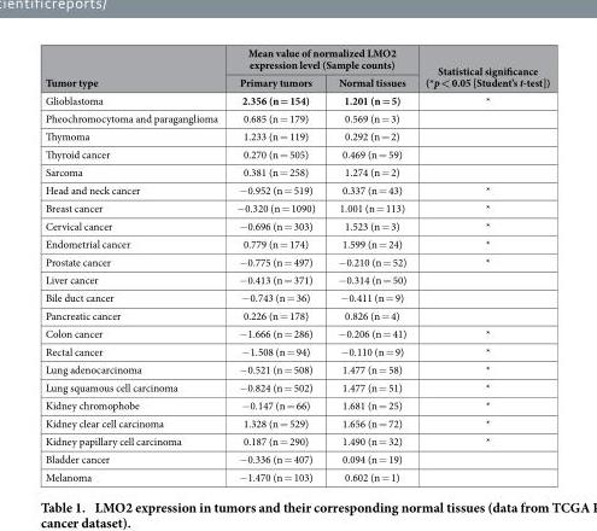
<table><thead><tr><td rowspan="2">Tumor type</td><td colspan="2">Mean value of normalized LMO2 expression level (Sample counts)</td><td rowspan="2">Statistical significance (*p &lt; 0.05 [Student’s t-test])</td></tr><tr><td>Primary tumors</td><td>Normal tissues</td></tr></thead><tbody><tr><td>Glioblastoma</td><td>2.356 (n = 154)</td><td>1.201 (n = 5)</td><td>*</td></tr><tr><td>Pheochromocytoma and paraganglioma</td><td>0.685 (n = 179)</td><td>0.569 (n = 3)</td><td></td></tr><tr><td>Thymoma</td><td>1.233 (n = 119)</td><td>0.292 (n = 2)</td><td></td></tr><tr><td>Thyroid cancer</td><td>0.270 (n = 505)</td><td>0.469 (n = 59)</td><td></td></tr><tr><td>Sarcoma</td><td>0.381 (n = 258)</td><td>1.274 (n = 2)</td><td></td></tr><tr><td>Head and neck cancer</td><td>− 0.952 (n = 519)</td><td>0.337 (n = 43)</td><td>*</td></tr><tr><td>Breast cancer</td><td>− 0.320 (n = 1090)</td><td>1.001 (n = 113)</td><td>*</td></tr><tr><td>Cervical cancer</td><td>− 0.696 (n = 303)</td><td>1.523 (n = 3)</td><td>*</td></tr><tr><td>Endometrial cancer</td><td>0.779 (n = 174)</td><td>1.599 (n = 24)</td><td>*</td></tr><tr><td>Prostate cancer</td><td>− 0.775 (n = 497)</td><td>− 0.210 (n = 52)</td><td>*</td></tr><tr><td>Liver cancer</td><td>− 0.413 (n = 371)</td><td>− 0.314 (n = 50)</td><td></td></tr><tr><td>Bile duct cancer</td><td>− 0.743 (n = 36)</td><td>− 0.411 (n = 9)</td><td></td></tr><tr><td>Pancreatic cancer</td><td>0.226 (n = 178)</td><td>0.826 (n = 4)</td><td></td></tr><tr><td>Colon cancer</td><td>− 1.666 (n = 286)</td><td>− 0.206 (n = 41)</td><td>*</td></tr><tr><td>Rectal cancer</td><td>− 1.508 (n = 94)</td><td>− 0.110 (n = 9)</td><td>*</td></tr><tr><td>Lung adenocarcinoma</td><td>− 0.521 (n = 508)</td><td>1.477 (n = 58)</td><td>*</td></tr><tr><td>Lung squamous cell carcinoma</td><td>− 0.824 (n = 502)</td><td>1.477 (n = 51)</td><td>*</td></tr><tr><td>Kidney chromophobe</td><td>− 0.147 (n = 66)</td><td>1.681 (n = 25)</td><td>*</td></tr><tr><td>Kidney clear cell carcinoma</td><td>1.328 (n = 529)</td><td>1.656 (n = 72)</td><td>*</td></tr><tr><td>Kidney papillary cell carcinoma</td><td>0.187 (n = 290)</td><td>1.490 (n = 32)</td><td>*</td></tr><tr><td>Bladder cancer</td><td>− 0.336 (n = 407)</td><td>0.094 (n = 19)</td><td></td></tr><tr><td>Melanoma</td><td>− 1.470 (n = 103)</td><td>0.602 (n = 1)</td><td></td></tr></tbody></table>